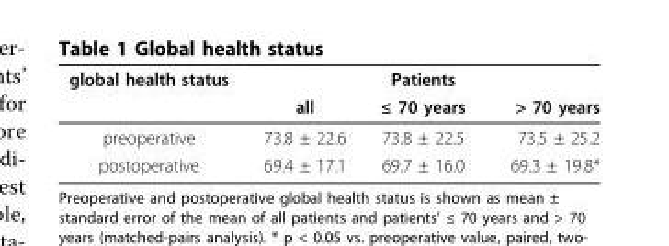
<table><thead><tr><td rowspan="2">global health status</td><td rowspan="2">all</td><td rowspan="2">Patients ≤ 70 years</td><td rowspan="2">&gt; 70 years</td></tr><tr></tr></thead><tbody><tr><td>preoperative</td><td>73.8 ± 22.6</td><td>73.8 ± 22.5</td><td>73.5 ± 25.2</td></tr><tr><td>postoperative</td><td>69.4 ± 17.1</td><td>69.7 ± 16.0</td><td>69.3 ± 19.8*</td></tr></tbody></table>